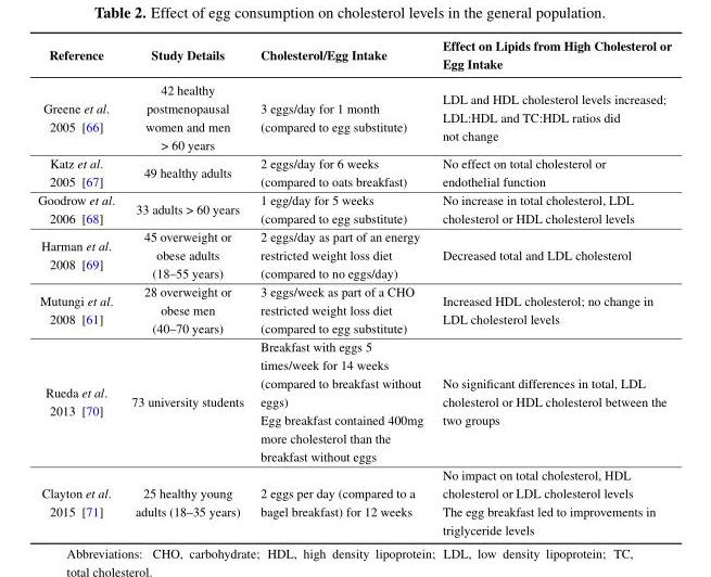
<table><thead><tr><td>Reference</td><td>Study Details</td><td>Cholesterol/Egg Intake</td><td>Effect on Lipids from High Cholesterol or Egg Intake</td></tr></thead><tbody><tr><td>Greene et al. 2005 [66]</td><td>42 healthy postmenopausal women and men &gt; 60 years</td><td>3 eggs/day for 1 month (compared to egg substitute)</td><td>LDL and HDL cholesterol levels increased; LDL:HDL and TC:HDL ratios did not change</td></tr><tr><td>Katz et al. 2005 [67]</td><td>49 healthy adults</td><td>2 eggs/day for 6 weeks (compared to oats breakfast)</td><td>No effect on total cholesterol or endothelial function</td></tr><tr><td>Goodrow et al. 2006 [68]</td><td>33 adults &gt; 60 years</td><td>1 egg/day for 5 weeks (compared to egg substitute)</td><td>No increase in total cholesterol, LDL cholesterol or HDL cholesterol levels</td></tr><tr><td>Harman et al. 2008 [69]</td><td>45 overweight or obese adults (18–55 years)</td><td>2 eggs/day as part of an energy restricted weight loss diet (compared to no eggs/day)</td><td>Decreased total and LDL cholesterol</td></tr><tr><td>Mutungi et al. 2008 [61]</td><td>28 overweight or obese men (40–70 years)</td><td>3 eggs/week as part of a CHO restricted weight loss diet (compared to egg substitute)</td><td>Increased HDL cholesterol; no change in LDL cholesterol levels</td></tr><tr><td>Rueda et al. 2013 [70]</td><td>73 university students</td><td>Breakfast with eggs 5 times/week for 14 weeks (compared to breakfast without eggs) Egg breakfast contained 400mg more cholesterol than the breakfast without eggs</td><td>No significant differences in total, LDL cholesterol or HDL cholesterol between the two groups</td></tr><tr><td>Clayton et al. 2015 [71]</td><td>25 healthy young adults (18–35 years)</td><td>2 eggs per day (compared to a bagel breakfast) for 12 weeks</td><td>No impact on total cholesterol, HDL cholesterol or LDL cholesterol levels The egg breakfast led to improvements in triglyceride levels</td></tr></tbody></table>